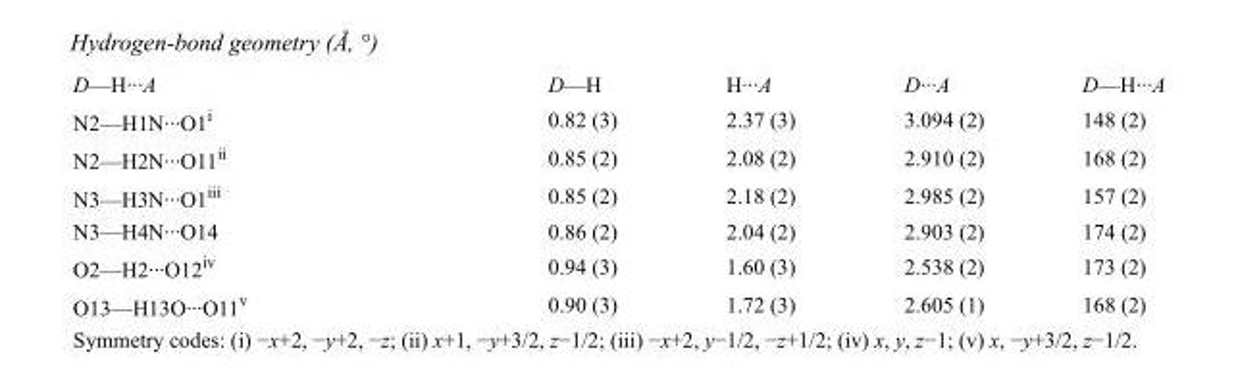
<table><tbody><tr><td>D—H···A</td><td>D—H</td><td>H···A</td><td>D···A</td><td>D—H···A</td></tr><tr><td>N2—H1N···O1<sup>i</sup></td><td>0.82 (3)</td><td>2.37 (3)</td><td>3.094 (2)</td><td>148 (2)</td></tr><tr><td>N2—H2N···O11<sup>ii</sup></td><td>0.85 (2)</td><td>2.08 (2)</td><td>2.910 (2)</td><td>168 (2)</td></tr><tr><td>N3—H3N···O1<sup>iii</sup></td><td>0.85 (2)</td><td>2.18 (2)</td><td>2.985 (2)</td><td>157 (2)</td></tr><tr><td>N3—H4N···O14</td><td>0.86 (2)</td><td>2.04 (2)</td><td>2.903 (2)</td><td>174 (2)</td></tr><tr><td>O2—H2···O12<sup>iv</sup></td><td>0.94 (3)</td><td>1.60 (3)</td><td>2.538 (2)</td><td>173 (2)</td></tr><tr><td>O13—H13O···O11<sup>v</sup></td><td>0.90 (3)</td><td>1.72 (3)</td><td>2.605 (1)</td><td>168 (2)</td></tr></tbody></table>